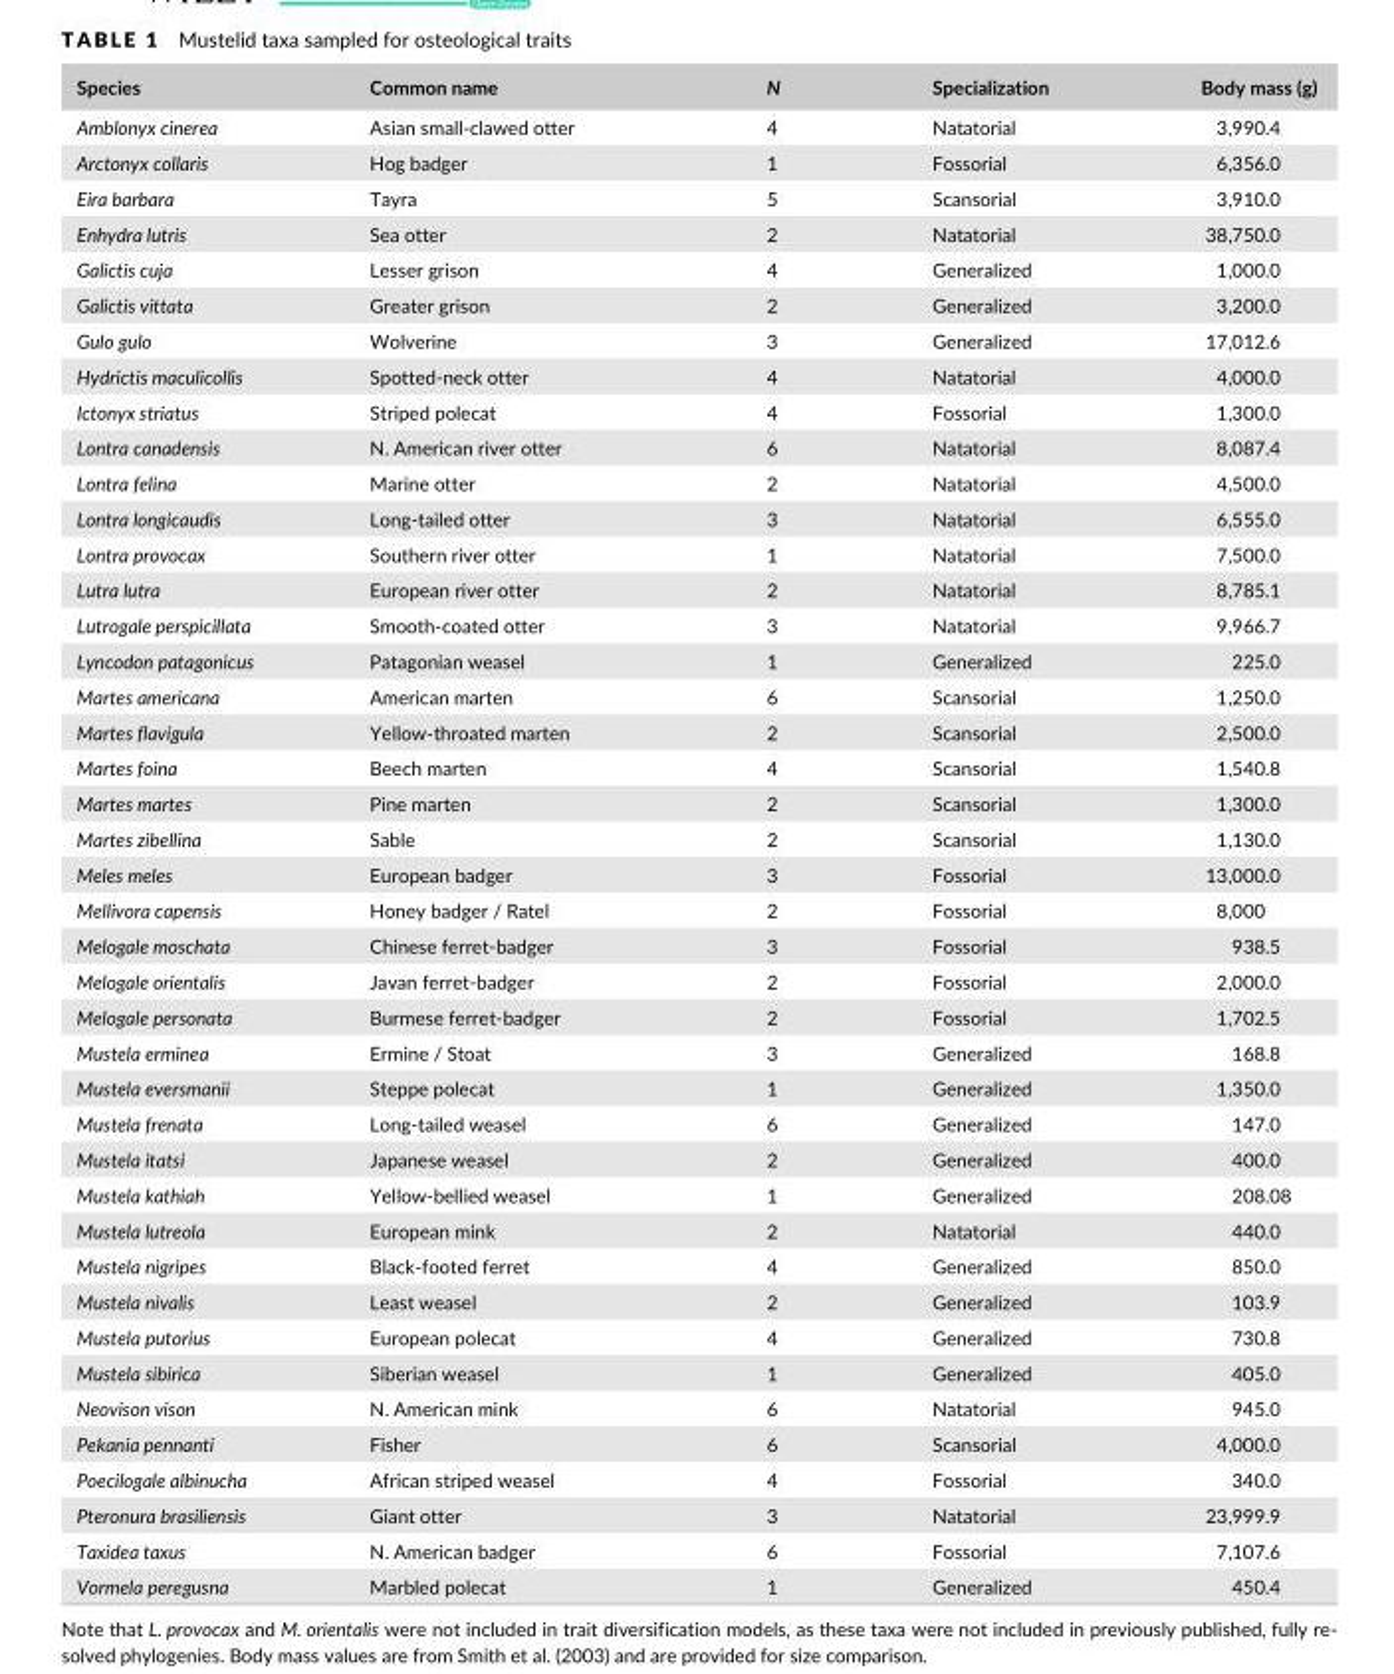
<table><thead><tr><td>Species</td><td>Common name</td><td>N</td><td>Specialization</td><td>Body mass (g)</td></tr></thead><tbody><tr><td>Amblonyx cinerea</td><td>Asian small- clawed otter</td><td>4</td><td>Natatorial</td><td>3,990.4</td></tr><tr><td>Arctonyx collaris</td><td>Hog badger</td><td>1</td><td>Fossorial</td><td>6,356.0</td></tr><tr><td>Eira barbara</td><td>Tayra</td><td>5</td><td>Scansorial</td><td>3,910.0</td></tr><tr><td>Enhydra lutris</td><td>Sea otter</td><td>2</td><td>Natatorial</td><td>38,750.0</td></tr><tr><td>Galictis cuja</td><td>Lesser grison</td><td>4</td><td>Generalized</td><td>1,000.0</td></tr><tr><td>Galictis vittata</td><td>Greater grison</td><td>2</td><td>Generalized</td><td>3,200.0</td></tr><tr><td>Gulo gulo</td><td>Wolverine</td><td>3</td><td>Generalized</td><td>17,012.6</td></tr><tr><td>Hydrictis maculicollis</td><td>Spotted- neck otter</td><td>4</td><td>Natatorial</td><td>4,000.0</td></tr><tr><td>Ictonyx striatus</td><td>Striped polecat</td><td>4</td><td>Fossorial</td><td>1,300.0</td></tr><tr><td>Lontra canadensis</td><td>N. American river otter</td><td>6</td><td>Natatorial</td><td>8,087.4</td></tr><tr><td>Lontra felina</td><td>Marine otter</td><td>2</td><td>Natatorial</td><td>4,500.0</td></tr><tr><td>Lontra longicaudis</td><td>Long- tailed otter</td><td>3</td><td>Natatorial</td><td>6,555.0</td></tr><tr><td>Lontra provocax</td><td>Southern river otter</td><td>1</td><td>Natatorial</td><td>7,500.0</td></tr><tr><td>Lutra lutra</td><td>European river otter</td><td>2</td><td>Natatorial</td><td>8,785.1</td></tr><tr><td>Lutrogale perspicillata</td><td>Smooth- coated otter</td><td>3</td><td>Natatorial</td><td>9,966.7</td></tr><tr><td>Lyncodon patagonicus</td><td>Patagonian weasel</td><td>1</td><td>Generalized</td><td>225.0</td></tr><tr><td>Martes americana</td><td>American marten</td><td>6</td><td>Scansorial</td><td>1,250.0</td></tr><tr><td>Martes flavigula</td><td>Yellow- throated marten</td><td>2</td><td>Scansorial</td><td>2,500.0</td></tr><tr><td>Martes foina</td><td>Beech marten</td><td>4</td><td>Scansorial</td><td>1,540.8</td></tr><tr><td>Martes martes</td><td>Pine marten</td><td>2</td><td>Scansorial</td><td>1,300.0</td></tr><tr><td>Martes zibellina</td><td>Sable</td><td>2</td><td>Scansorial</td><td>1,130.0</td></tr><tr><td>Meles meles</td><td>European badger</td><td>3</td><td>Fossorial</td><td>13,000.0</td></tr><tr><td>Mellivora capensis</td><td>Honey badger / Ratel</td><td>2</td><td>Fossorial</td><td>8,000</td></tr><tr><td>Melogale moschata</td><td>Chinese ferret- badger</td><td>3</td><td>Fossorial</td><td>938.5</td></tr><tr><td>Melogale orientalis</td><td>Javan ferret- badger</td><td>2</td><td>Fossorial</td><td>2,000.0</td></tr><tr><td>Melogale personata</td><td>Burmese ferret- badger</td><td>2</td><td>Fossorial</td><td>1,702.5</td></tr><tr><td>Mustela erminea</td><td>Ermine / Stoat</td><td>3</td><td>Generalized</td><td>168.8</td></tr><tr><td>Mustela eversmanii</td><td>Steppe polecat</td><td>1</td><td>Generalized</td><td>1,350.0</td></tr><tr><td>Mustela frenata</td><td>Long- tailed weasel</td><td>6</td><td>Generalized</td><td>147.0</td></tr><tr><td>Mustela itatsi</td><td>Japanese weasel</td><td>2</td><td>Generalized</td><td>400.0</td></tr><tr><td>Mustela kathiah</td><td>Yellow- bellied weasel</td><td>1</td><td>Generalized</td><td>208.08</td></tr><tr><td>Mustela lutreola</td><td>European mink</td><td>2</td><td>Natatorial</td><td>440.0</td></tr><tr><td>Mustela nigripes</td><td>Black- footed ferret</td><td>4</td><td>Generalized</td><td>850.0</td></tr><tr><td>Mustela nivalis</td><td>Least weasel</td><td>2</td><td>Generalized</td><td>103.9</td></tr><tr><td>Mustela putorius</td><td>European polecat</td><td>4</td><td>Generalized</td><td>730.8</td></tr><tr><td>Mustela sibirica</td><td>Siberian weasel</td><td>1</td><td>Generalized</td><td>405.0</td></tr><tr><td>Neovison vison</td><td>N. American mink</td><td>6</td><td>Natatorial</td><td>945.0</td></tr><tr><td>Pekania pennanti</td><td>Fisher</td><td>6</td><td>Scansorial</td><td>4,000.0</td></tr><tr><td>Poecilogale albinucha</td><td>African striped weasel</td><td>4</td><td>Fossorial</td><td>340.0</td></tr><tr><td>Pteronura brasiliensis</td><td>Giant otter</td><td>3</td><td>Natatorial</td><td>23,999.9</td></tr><tr><td>Taxidea taxus</td><td>N. American badger</td><td>6</td><td>Fossorial</td><td>7,107.6</td></tr><tr><td>Vormela peregusna</td><td>Marbled polecat</td><td>1</td><td>Generalized</td><td>450.4</td></tr></tbody></table>